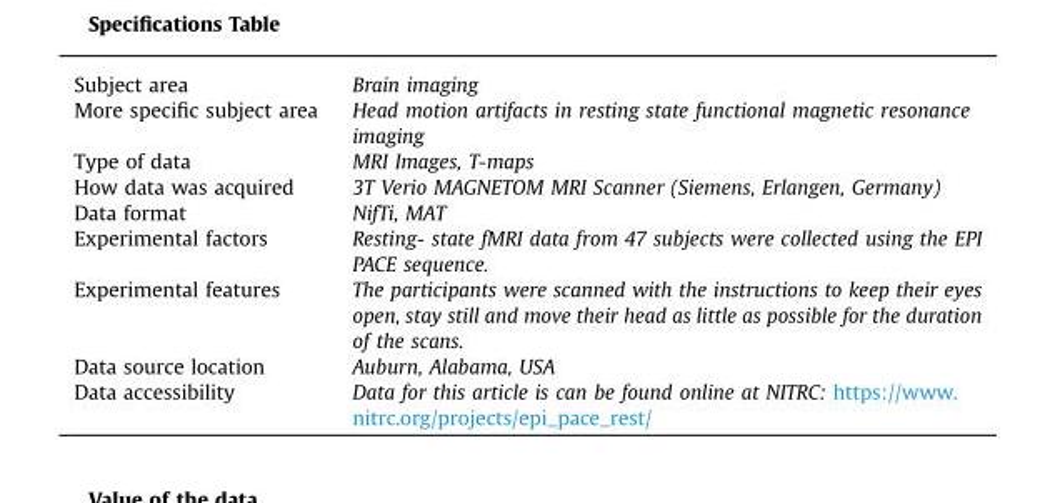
<table><tbody><tr><td>Subject area</td><td>Brain imaging</td></tr><tr><td>More specific subject area</td><td>Head motion artifacts in resting state functional magnetic resonance imaging</td></tr><tr><td>Type of data</td><td>MRI Images, T-maps</td></tr><tr><td>How data was acquired</td><td>3T Verio MAGNETOM MRI Scanner (Siemens, Erlangen, Germany)</td></tr><tr><td>Data format</td><td>NifTi, MAT</td></tr><tr><td>Experimental factors</td><td>Resting- state fMRI data from 47 subjects were collected using the EPI PACE sequence.</td></tr><tr><td>Experimental features</td><td>The participants were scanned with the instructions to keep their eyes open, stay still and move their head as little as possible for the duration of the scans.</td></tr><tr><td>Data source location</td><td>Auburn, Alabama, USA</td></tr><tr><td>Data accessibility</td><td>Data for this article is can be found online at NITRC: https://www. nitrc.org/projects/epi_pace_rest/</td></tr></tbody></table>